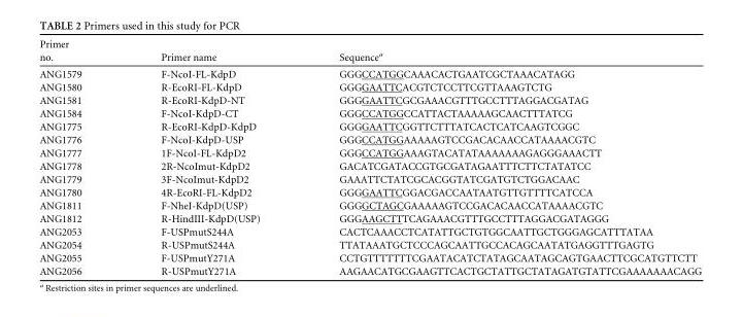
<table><thead><tr><td>Primer no.</td><td>Primer name</td><td>Sequence<sup>a</sup></td></tr></thead><tbody><tr><td>ANG1579</td><td>F-NcoI-FL-KdpD</td><td>GGGCCATGGCAAACACTGAATCGCTAAACATAGG</td></tr><tr><td>ANG1580</td><td>R-EcoRI-FL-KdpD</td><td>GGGGAATTCACGTCTCCTTCGTTAAAGTCTG</td></tr><tr><td>ANG1581</td><td>R-EcoRI-KdpD-NT</td><td>GGGGAATTCGCGAAACGTTTGCCTTTAGGACGATAG</td></tr><tr><td>ANG1584</td><td>F-NcoI-KdpD-CT</td><td>GGGCCATGGCCATTACTAAAAAGCAACTTTATCG</td></tr><tr><td>ANG1775</td><td>R-EcoRI-KdpD-KdpD</td><td>GGGGAATTCGGTTCTTTATCACTCATCAAGTCGGC</td></tr><tr><td>ANG1776</td><td>F-NcoI-KdpD-USP</td><td>GGGCCATGGAAAAAGTCCGACACAACCATAAAACGTC</td></tr><tr><td>ANG1777</td><td>1F-NcoI-FL-KdpD2</td><td>GGGCCATGGAAAGTACATATAAAAAAAGAGGGAAACTT</td></tr><tr><td>ANG1778</td><td>2R-NcoImut-KdpD2</td><td>GACATCGATACCGTGCGATAGAATTTCTTCTATATCC</td></tr><tr><td>ANG1779</td><td>3F-NcoImut-KdpD2</td><td>GAAATTCTATCGCACGGTATCGATGTCTGGACAAC</td></tr><tr><td>ANG1780</td><td>4R-EcoRI-FL-KdpD2</td><td>GGGGAATTCGGACGACCAATAATGTTGTTTTCATCCA</td></tr><tr><td>ANG1811</td><td>F-NheI-KdpD(USP)</td><td>GGGGCTAGCGAAAAAGTCCGACACAACCATAAAACGTC</td></tr><tr><td>ANG1812</td><td>R-HindIII-KdpD(USP)</td><td>GGGAAGCTTTCAGAAACGTTTGCCTTTAGGACGATAGGG</td></tr><tr><td>ANG2053</td><td>F-USPmutS244A</td><td>CACTCAAACCTCATATTGCTGTGGCAATTGCTGGGAGCATTTATAA</td></tr><tr><td>ANG2054</td><td>R-USPmutS244A</td><td>TTATAAATGCTCCCAGCAATTGCCACAGCAATATGAGGTTTGAGTG</td></tr><tr><td>ANG2055</td><td>F-USPmutY271A</td><td>CCTGTTTTTTTCGAATACATCTATAGCAATAGCAGTGAACTTCGCATGTTCTT</td></tr><tr><td>ANG2056</td><td>R-USPmutY271A</td><td>AAGAACATGCGAAGTTCACTGCTATTGCTATAGATGTATTCGAAAAAAACAGG</td></tr></tbody></table>